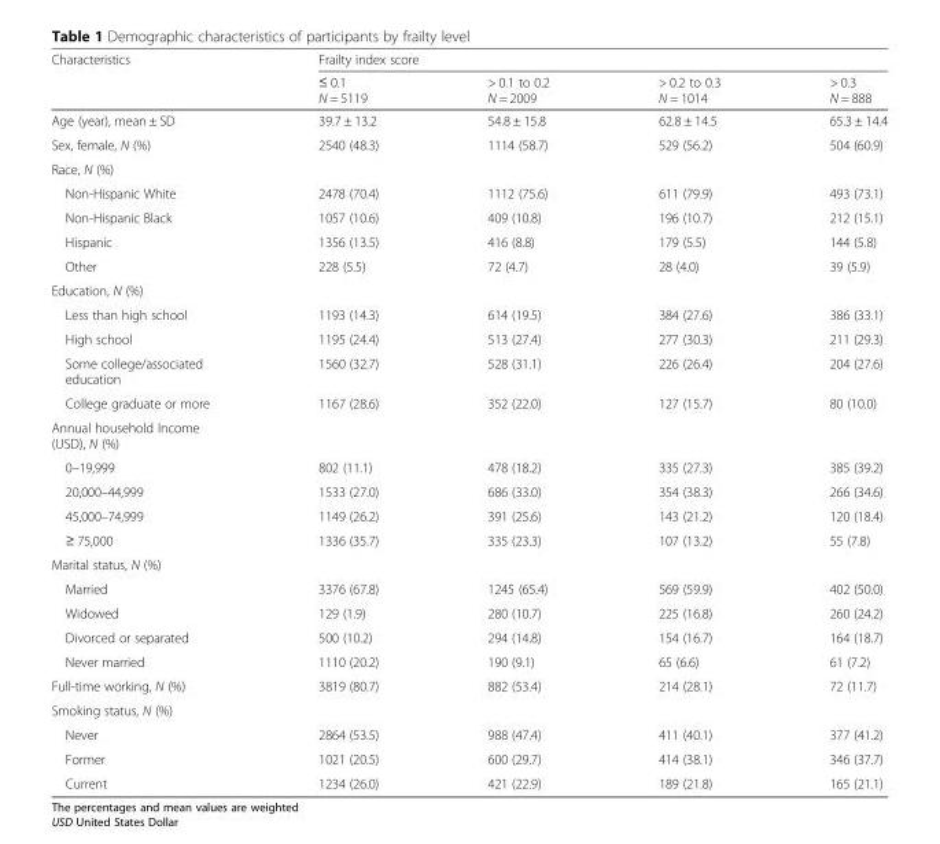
<table><thead><tr><td rowspan="2">Characteristics</td><td colspan="4">Frailty index score</td></tr><tr><td>≤ 0.1 N = 5119</td><td>&gt; 0.1 to 0.2 N = 2009</td><td>&gt; 0.2 to 0.3 N = 1014</td><td>&gt; 0.3 N = 888</td></tr></thead><tbody><tr><td>Age (year), mean ± SD</td><td>39.7 ± 13.2</td><td>54.8 ± 15.8</td><td>62.8 ± 14.5</td><td>65.3 ± 14.4</td></tr><tr><td>Sex, female, N (%)</td><td>2540 (48.3)</td><td>1114 (58.7)</td><td>529 (56.2)</td><td>504 (60.9)</td></tr><tr><td colspan="5">Race, N (%)</td></tr><tr><td>Non-Hispanic White</td><td>2478 (70.4)</td><td>1112 (75.6)</td><td>611 (79.9)</td><td>493 (73.1)</td></tr><tr><td>Non-Hispanic Black</td><td>1057 (10.6)</td><td>409 (10.8)</td><td>196 (10.7)</td><td>212 (15.1)</td></tr><tr><td>Hispanic</td><td>1356 (13.5)</td><td>416 (8.8)</td><td>179 (5.5)</td><td>144 (5.8)</td></tr><tr><td>Other</td><td>228 (5.5)</td><td>72 (4.7)</td><td>28 (4.0)</td><td>39 (5.9)</td></tr><tr><td colspan="5">Education, N (%)</td></tr><tr><td>Less than high school</td><td>1193 (14.3)</td><td>614 (19.5)</td><td>384 (27.6)</td><td>386 (33.1)</td></tr><tr><td>High school</td><td>1195 (24.4)</td><td>513 (27.4)</td><td>277 (30.3)</td><td>211 (29.3)</td></tr><tr><td>Some college/associated education</td><td>1560 (32.7)</td><td>528 (31.1)</td><td>226 (26.4)</td><td>204 (27.6)</td></tr><tr><td>College graduate or more</td><td>1167 (28.6)</td><td>352 (22.0)</td><td>127 (15.7)</td><td>80 (10.0)</td></tr><tr><td colspan="5">Annual household Income (USD), N (%)</td></tr><tr><td>0–19,999</td><td>802 (11.1)</td><td>478 (18.2)</td><td>335 (27.3)</td><td>385 (39.2)</td></tr><tr><td>20,000–44,999</td><td>1533 (27.0)</td><td>686 (33.0)</td><td>354 (38.3)</td><td>266 (34.6)</td></tr><tr><td>45,000–74,999</td><td>1149 (26.2)</td><td>391 (25.6)</td><td>143 (21.2)</td><td>120 (18.4)</td></tr><tr><td>≥ 75,000</td><td>1336 (35.7)</td><td>335 (23.3)</td><td>107 (13.2)</td><td>55 (7.8)</td></tr><tr><td colspan="5">Marital status, N (%)</td></tr><tr><td>Married</td><td>3376 (67.8)</td><td>1245 (65.4)</td><td>569 (59.9)</td><td>402 (50.0)</td></tr><tr><td>Widowed</td><td>129 (1.9)</td><td>280 (10.7)</td><td>225 (16.8)</td><td>260 (24.2)</td></tr><tr><td>Divorced or separated</td><td>500 (10.2)</td><td>294 (14.8)</td><td>154 (16.7)</td><td>164 (18.7)</td></tr><tr><td>Never married</td><td>1110 (20.2)</td><td>190 (9.1)</td><td>65 (6.6)</td><td>61 (7.2)</td></tr><tr><td>Full-time working, N (%)</td><td>3819 (80.7)</td><td>882 (53.4)</td><td>214 (28.1)</td><td>72 (11.7)</td></tr><tr><td colspan="5">Smoking status, N (%)</td></tr><tr><td>Never</td><td>2864 (53.5)</td><td>988 (47.4)</td><td>411 (40.1)</td><td>377 (41.2)</td></tr><tr><td>Former</td><td>1021 (20.5)</td><td>600 (29.7)</td><td>414 (38.1)</td><td>346 (37.7)</td></tr><tr><td>Current</td><td>1234 (26.0)</td><td>421 (22.9)</td><td>189 (21.8)</td><td>165 (21.1)</td></tr></tbody></table>